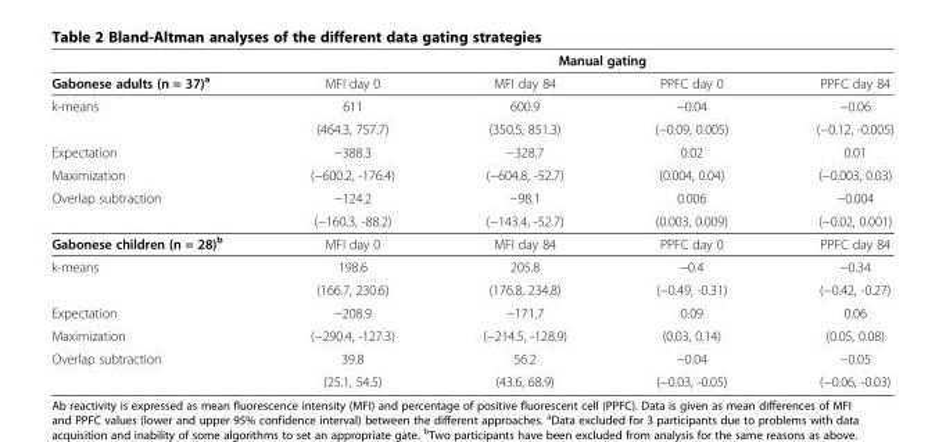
<table><thead><tr><td rowspan="2">Gabonese adults (n = 37)<sup>a</sup></td><td colspan="4">Manual gating</td></tr><tr><td>MFI day 0</td><td>MFI day 84</td><td>PPFC day 0</td><td>PPFC day 84</td></tr></thead><tbody><tr><td rowspan="2">k-means</td><td>611</td><td>600.9</td><td>−0.04</td><td>−0.06</td></tr><tr><td>(464.3, 757.7)</td><td>(350.5, 851.3)</td><td>(−0.09, 0.005)</td><td>(−0.12, -0.005)</td></tr><tr><td>Expectation</td><td>−388.3</td><td>−328.7</td><td>0.02</td><td>0.01</td></tr><tr><td>Maximization</td><td>(−600.2, -176.4)</td><td>(−604.8, -52.7)</td><td>(0.004, 0.04)</td><td>(−0.003, 0.03)</td></tr><tr><td rowspan="2">Overlap subtraction</td><td>−124.2</td><td>−98.1</td><td>0.006</td><td>−0.004</td></tr><tr><td>(−160.3, -88.2)</td><td>(−143.4, -52.7)</td><td>(0.003, 0.009)</td><td>(−0.02, 0.001)</td></tr><tr><td>Gabonese children (n = 28)<sup>b</sup></td><td>MFI day 0</td><td>MFI day 84</td><td>PPFC day 0</td><td>PPFC day 84</td></tr><tr><td rowspan="2">k-means</td><td>198.6</td><td>205.8</td><td>−0.4</td><td>−0.34</td></tr><tr><td>(166.7, 230.6)</td><td>(176.8, 234.8)</td><td>(−0.49, -0.31)</td><td>(−0.42, -0.27)</td></tr><tr><td>Expectation</td><td>−208.9</td><td>−171.7</td><td>0.09</td><td>0.06</td></tr><tr><td>Maximization</td><td>(−290.4, -127.3)</td><td>(−214.5, -128.9)</td><td>(0.03, 0.14)</td><td>(0.05, 0.08)</td></tr><tr><td rowspan="2">Overlap subtraction</td><td>39.8</td><td>56.2</td><td>−0.04</td><td>−0.05</td></tr><tr><td>(25.1, 54.5)</td><td>(43.6, 68.9)</td><td>(−0.03, -0.05)</td><td>(−0.06, -0.03)</td></tr></tbody></table>